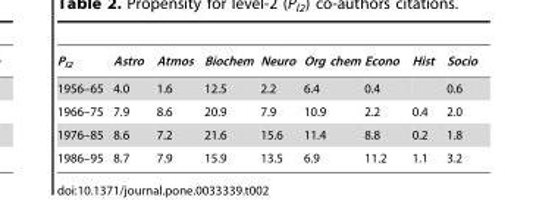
<table><thead><tr><td>P<sub>l2</sub></td><td>Astro</td><td>Atmos</td><td>Biochem</td><td>Neuro</td><td>Org chem</td><td>Econo</td><td>Hist</td><td>Socio</td></tr></thead><tbody><tr><td>1956–65</td><td>4.0</td><td>1.6</td><td>12.5</td><td>2.2</td><td>6.4</td><td>0.4</td><td></td><td>0.6</td></tr><tr><td>1966–75</td><td>7.9</td><td>8.6</td><td>20.9</td><td>7.9</td><td>10.9</td><td>2.2</td><td>0.4</td><td>2.0</td></tr><tr><td>1976–85</td><td>8.6</td><td>7.2</td><td>21.6</td><td>15.6</td><td>11.4</td><td>8.8</td><td>0.2</td><td>1.8</td></tr><tr><td>1986–95</td><td>8.7</td><td>7.9</td><td>15.9</td><td>13.5</td><td>6.9</td><td>11.2</td><td>1.1</td><td>3.2</td></tr></tbody></table>